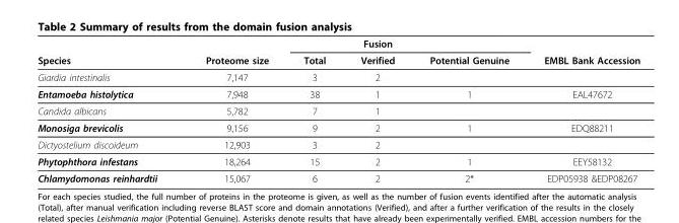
<table><thead><tr><td rowspan="2">Species</td><td rowspan="2">Proteome size</td><td rowspan="2">Total</td><td rowspan="2">Fusion Verified</td><td rowspan="2">Potential Genuine</td><td rowspan="2">EMBL Bank Accession</td></tr><tr></tr></thead><tbody><tr><td>Giardia intestinalis</td><td>7,147</td><td>3</td><td>2</td><td></td><td></td></tr><tr><td>Entamoeba histolytica</td><td>7,948</td><td>38</td><td>1</td><td>1</td><td>EAL47672</td></tr><tr><td>Candida albicans</td><td>5,782</td><td>7</td><td>1</td><td></td><td></td></tr><tr><td>Monosiga brevicolis</td><td>9,156</td><td>9</td><td>2</td><td>1</td><td>EDQ88211</td></tr><tr><td>Dictyostelium discoideum</td><td>12,903</td><td>3</td><td>2</td><td></td><td></td></tr><tr><td>Phytophthora infestans</td><td>18,264</td><td>15</td><td>2</td><td>1</td><td>EEY58132</td></tr><tr><td>Chlamydomonas reinhardtii</td><td>15,067</td><td>6</td><td>2</td><td>2*</td><td>EDP05938 &amp;EDP08267</td></tr></tbody></table>